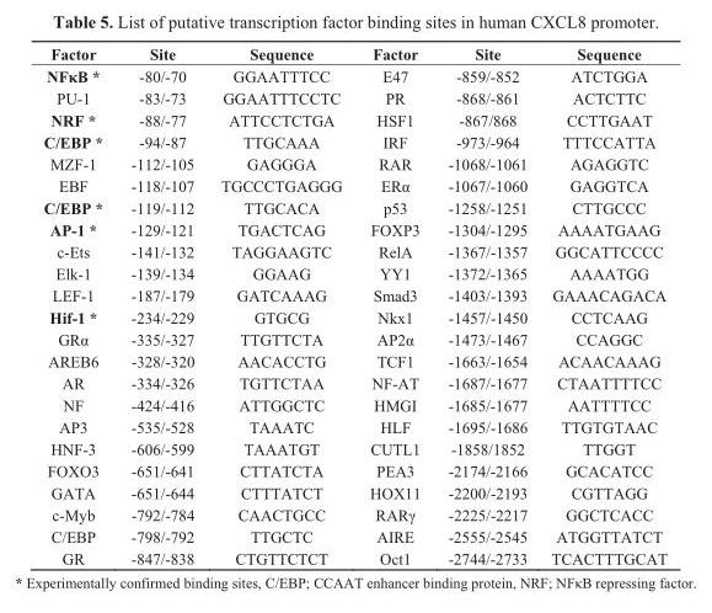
<table><thead><tr><td>Factor</td><td>Site</td><td>Sequence</td><td>Factor</td><td>Site</td><td>Sequence</td></tr></thead><tbody><tr><td>NFκB *</td><td>-80/-70</td><td>GGAATTTCC</td><td>E47</td><td>-859/-852</td><td>ATCTGGA</td></tr><tr><td>PU-1</td><td>-83/-73</td><td>GGAATTTCCTC</td><td>PR</td><td>-868/-861</td><td>ACTCTTC</td></tr><tr><td>NRF *</td><td>-88/-77</td><td>ATTCCTCTGA</td><td>HSF1</td><td>-867/868</td><td>CCTTGAAT</td></tr><tr><td>C/EBP *</td><td>-94/-87</td><td>TTGCAAA</td><td>IRF</td><td>-973/-964</td><td>TTTCCATTA</td></tr><tr><td>MZF-1</td><td>-112/-105</td><td>GAGGGA</td><td>RAR</td><td>-1068/-1061</td><td>AGAGGTC</td></tr><tr><td>EBF</td><td>-118/-107</td><td>TGCCCTGAGGG</td><td>ERα</td><td>-1067/-1060</td><td>GAGGTCA</td></tr><tr><td>C/EBP *</td><td>-119/-112</td><td>TTGCACA</td><td>p53</td><td>-1258/-1251</td><td>CTTGCCC</td></tr><tr><td>AP-1 *</td><td>-129/-121</td><td>TGACTCAG</td><td>FOXP3</td><td>-1304/-1295</td><td>AAAATGAAG</td></tr><tr><td>c-Ets</td><td>-141/-132</td><td>TAGGAAGTC</td><td>RelA</td><td>-1367/-1357</td><td>GGCATTCCCC</td></tr><tr><td>Elk-1</td><td>-139/-134</td><td>GGAAG</td><td>YY1</td><td>-1372/-1365</td><td>AAAATGG</td></tr><tr><td>LEF-1</td><td>-187/-179</td><td>GATCAAAG</td><td>Smad3</td><td>-1403/-1393</td><td>GAAACAGACA</td></tr><tr><td>Hif-1 *</td><td>-234/-229</td><td>GTGCG</td><td>Nkx1</td><td>-1457/-1450</td><td>CCTCAAG</td></tr><tr><td>GRα</td><td>-335/-327</td><td>TTGTTCTA</td><td>AP2α</td><td>-1473/-1467</td><td>CCAGGC</td></tr><tr><td>AREB6</td><td>-328/-320</td><td>AACACCTG</td><td>TCF1</td><td>-1663/-1654</td><td>ACAACAAAG</td></tr><tr><td>AR</td><td>-334/-326</td><td>TGTTCTAA</td><td>NF-AT</td><td>-1687/-1677</td><td>CTAATTTTCC</td></tr><tr><td>NF</td><td>-424/-416</td><td>ATTGGCTC</td><td>HMGI</td><td>-1685/-1677</td><td>AATTTTCC</td></tr><tr><td>AP3</td><td>-535/-528</td><td>TAAATC</td><td>HLF</td><td>-1695/-1686</td><td>TTGTGTAAC</td></tr><tr><td>HNF-3</td><td>-606/-599</td><td>TAAATGT</td><td>CUTL1</td><td>-1858/1852</td><td>TTGGT</td></tr><tr><td>FOXO3</td><td>-651/-641</td><td>CTTATCTA</td><td>PEA3</td><td>-2174/-2166</td><td>GCACATCC</td></tr><tr><td>GATA</td><td>-651/-644</td><td>CTTTATCT</td><td>HOX11</td><td>-2200/-2193</td><td>CGTTAGG</td></tr><tr><td>c-Myb</td><td>-792/-784</td><td>CAACTGCC</td><td>RARγ</td><td>-2225/-2217</td><td>GGCTCACC</td></tr><tr><td>C/EBP</td><td>-798/-792</td><td>TTGCTC</td><td>AIRE</td><td>-2555/-2545</td><td>ATGGTTATCT</td></tr><tr><td>GR</td><td>-847/-838</td><td>CTGTTCTCT</td><td>Oct1</td><td>-2744/-2733</td><td>TCACTTTGCAT</td></tr></tbody></table>